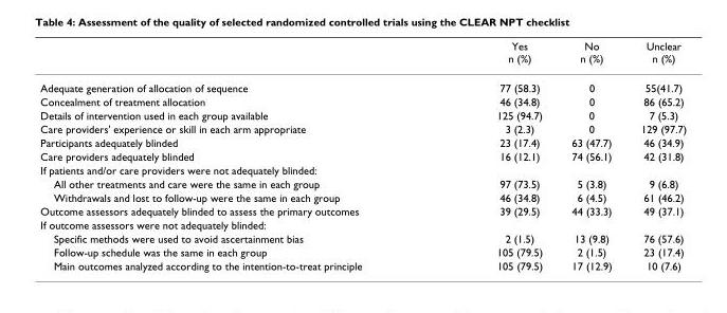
<table><thead><tr><td></td><td>Yes n (%)</td><td>No n (%)</td><td>Unclear n (%)</td></tr></thead><tbody><tr><td>Adequate generation of allocation of sequence</td><td>77 (58.3)</td><td>0</td><td>55(41.7)</td></tr><tr><td>Concealment of treatment allocation</td><td>46 (34.8)</td><td>0</td><td>86 (65.2)</td></tr><tr><td>Details of intervention used in each group available</td><td>125 (94.7)</td><td>0</td><td>7 (5.3)</td></tr><tr><td>Care providers&#x27; experience or skill in each arm appropriate</td><td>3 (2.3)</td><td>0</td><td>129 (97.7)</td></tr><tr><td>Participants adequately blinded</td><td>23 (17.4)</td><td>63 (47.7)</td><td>46 (34.9)</td></tr><tr><td>Care providers adequately blinded</td><td>16 (12.1)</td><td>74 (56.1)</td><td>42 (31.8)</td></tr><tr><td colspan="4">If patients and/or care providers were not adequately blinded:</td></tr><tr><td>All other treatments and care were the same in each group</td><td>97 (73.5)</td><td>5 (3.8)</td><td>9 (6.8)</td></tr><tr><td>Withdrawals and lost to follow-up were the same in each group</td><td>46 (34.8)</td><td>6 (4.5)</td><td>61 (46.2)</td></tr><tr><td>Outcome assessors adequately blinded to assess the primary outcomes</td><td>39 (29.5)</td><td>44 (33.3)</td><td>49 (37.1)</td></tr><tr><td colspan="4">If outcome assessors were not adequately blinded:</td></tr><tr><td>Specific methods were used to avoid ascertainment bias</td><td>2 (1.5)</td><td>13 (9.8)</td><td>76 (57.6)</td></tr><tr><td>Follow-up schedule was the same in each group</td><td>105 (79.5)</td><td>2 (1.5)</td><td>23 (17.4)</td></tr><tr><td>Main outcomes analyzed according to the intention-to-treat principle</td><td>105 (79.5)</td><td>17 (12.9)</td><td>10 (7.6)</td></tr></tbody></table>